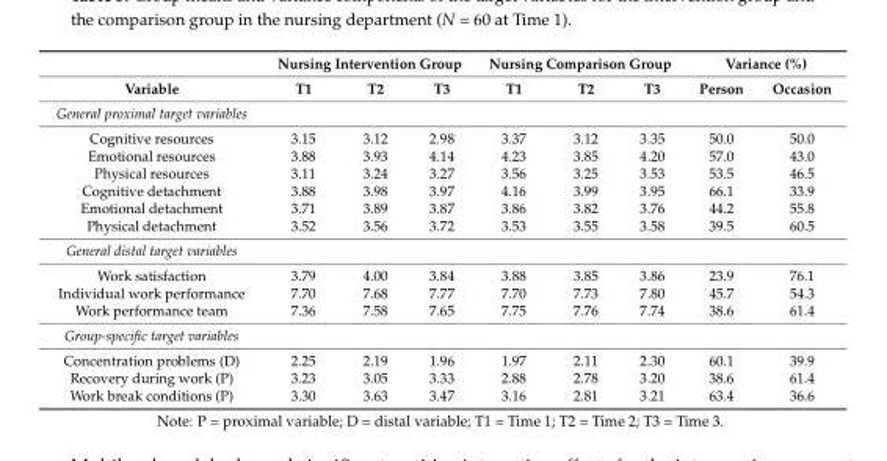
<table><thead><tr><td rowspan="2">Variable</td><td colspan="3">Nursing Intervention Group</td><td colspan="3">Nursing Comparison Group</td><td colspan="2">Variance (%)</td></tr><tr><td>T1</td><td>T2</td><td>T3</td><td>T1</td><td>T2</td><td>T3</td><td>Person</td><td>Occasion</td></tr></thead><tbody><tr><td colspan="9">General proximal target variables</td></tr><tr><td>Cognitive resources</td><td>3.15</td><td>3.12</td><td>2.98</td><td>3.37</td><td>3.12</td><td>3.35</td><td>50.0</td><td>50.0</td></tr><tr><td>Emotional resources</td><td>3.88</td><td>3.93</td><td>4.14</td><td>4.23</td><td>3.85</td><td>4.20</td><td>57.0</td><td>43.0</td></tr><tr><td>Physical resources</td><td>3.11</td><td>3.24</td><td>3.27</td><td>3.56</td><td>3.25</td><td>3.53</td><td>53.5</td><td>46.5</td></tr><tr><td>Cognitive detachment</td><td>3.88</td><td>3.98</td><td>3.97</td><td>4.16</td><td>3.99</td><td>3.95</td><td>66.1</td><td>33.9</td></tr><tr><td>Emotional detachment</td><td>3.71</td><td>3.89</td><td>3.87</td><td>3.86</td><td>3.82</td><td>3.76</td><td>44.2</td><td>55.8</td></tr><tr><td>Physical detachment</td><td>3.52</td><td>3.56</td><td>3.72</td><td>3.53</td><td>3.55</td><td>3.58</td><td>39.5</td><td>60.5</td></tr><tr><td colspan="9">General distal target variables</td></tr><tr><td>Work satisfaction</td><td>3.79</td><td>4.00</td><td>3.84</td><td>3.88</td><td>3.85</td><td>3.86</td><td>23.9</td><td>76.1</td></tr><tr><td>Individual work performance</td><td>7.70</td><td>7.68</td><td>7.77</td><td>7.70</td><td>7.73</td><td>7.80</td><td>45.7</td><td>54.3</td></tr><tr><td>Work performance team</td><td>7.36</td><td>7.58</td><td>7.65</td><td>7.75</td><td>7.76</td><td>7.74</td><td>38.6</td><td>61.4</td></tr><tr><td colspan="9">Group-specific target variables</td></tr><tr><td>Concentration problems (D)</td><td>2.25</td><td>2.19</td><td>1.96</td><td>1.97</td><td>2.11</td><td>2.30</td><td>60.1</td><td>39.9</td></tr><tr><td>Recovery during work (P)</td><td>3.23</td><td>3.05</td><td>3.33</td><td>2.88</td><td>2.78</td><td>3.20</td><td>38.6</td><td>61.4</td></tr><tr><td>Work break conditions (P)</td><td>3.30</td><td>3.63</td><td>3.47</td><td>3.16</td><td>2.81</td><td>3.21</td><td>63.4</td><td>36.6</td></tr></tbody></table>